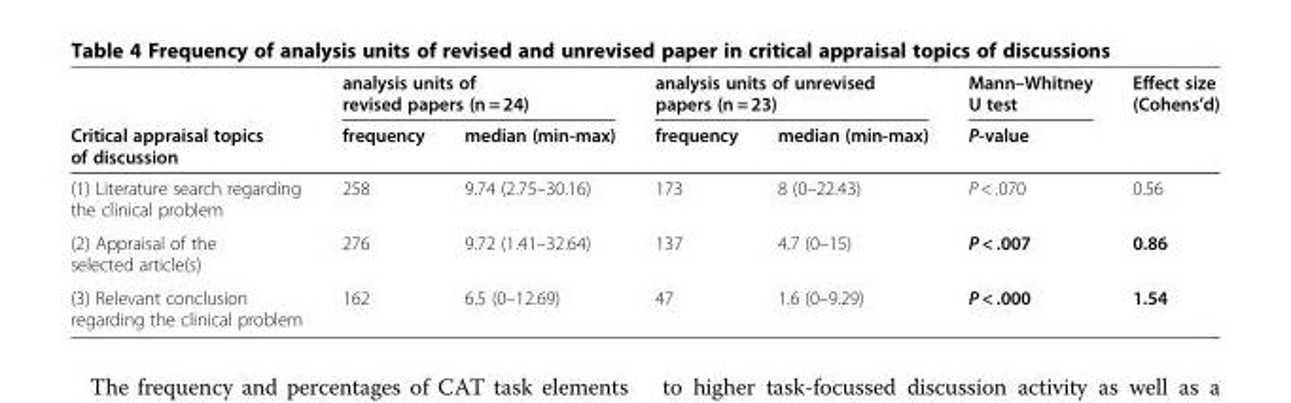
<table><thead><tr><td rowspan="2">Critical appraisal topics of discussion</td><td colspan="2">analysis units of revised papers (n = 24)</td><td colspan="2">analysis units of unrevised papers (n = 23)</td><td rowspan="2">Mann–Whitney U test P-value</td><td rowspan="2">Effect size (Cohens’d)</td></tr><tr><td>frequency</td><td>median (min-max)</td><td>frequency</td><td>median (min-max)</td></tr></thead><tbody><tr><td>(1) Literature search regarding the clinical problem</td><td>258</td><td>9.74 (2.75–30.16)</td><td>173</td><td>8 (0–22.43)</td><td>P &lt; .070</td><td>0.56</td></tr><tr><td>(2) Appraisal of the selected article(s)</td><td>276</td><td>9.72 (1.41–32.64)</td><td>137</td><td>4.7 (0–15)</td><td>P &lt; .007</td><td>0.86</td></tr><tr><td>(3) Relevant conclusion regarding the clinical problem</td><td>162</td><td>6.5 (0–12.69)</td><td>47</td><td>1.6 (0–9.29)</td><td>P &lt; .000</td><td>1.54</td></tr></tbody></table>